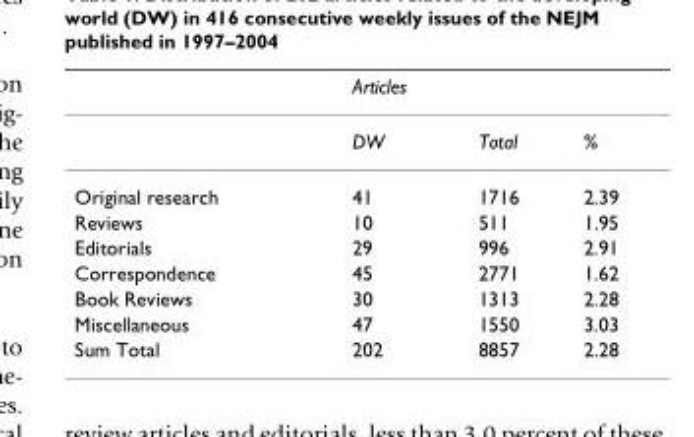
<table><thead><tr><td></td><td>Articles</td><td></td><td></td></tr></thead><tbody><tr><td></td><td>DW</td><td>Total</td><td>%</td></tr><tr><td>Original research</td><td>41</td><td>1716</td><td>2.39</td></tr><tr><td>Reviews</td><td>10</td><td>511</td><td>1.95</td></tr><tr><td>Editorials</td><td>29</td><td>996</td><td>2.91</td></tr><tr><td>Correspondence</td><td>45</td><td>2771</td><td>1.62</td></tr><tr><td>Book Reviews</td><td>30</td><td>1313</td><td>2.28</td></tr><tr><td>Miscellaneous</td><td>47</td><td>1550</td><td>3.03</td></tr><tr><td>Sum Total</td><td>202</td><td>8857</td><td>2.28</td></tr></tbody></table>